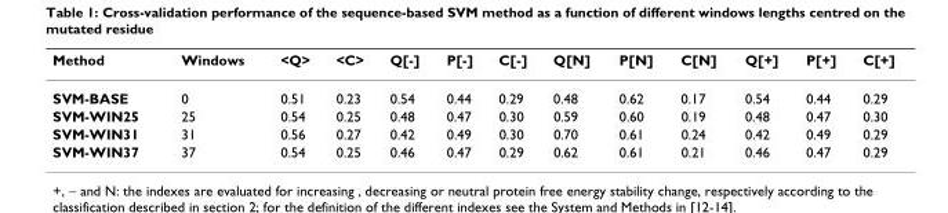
<table><thead><tr><td>Method</td><td>Windows</td><td>&lt;Q&gt;</td><td>&lt;C&gt;</td><td>Q[-]</td><td>P[-]</td><td>C[-]</td><td>Q[N]</td><td>P[N]</td><td>C[N]</td><td>Q[+]</td><td>P[+]</td><td>C[+]</td></tr></thead><tbody><tr><td>SVM-BASE</td><td>0</td><td>0.51</td><td>0.23</td><td>0.54</td><td>0.44</td><td>0.29</td><td>0.48</td><td>0.62</td><td>0.17</td><td>0.54</td><td>0.44</td><td>0.29</td></tr><tr><td>SVM-WIN25</td><td>25</td><td>0.54</td><td>0.25</td><td>0.48</td><td>0.47</td><td>0.30</td><td>0.59</td><td>0.60</td><td>0.19</td><td>0.48</td><td>0.47</td><td>0.30</td></tr><tr><td>SVM-WIN31</td><td>31</td><td>0.56</td><td>0.27</td><td>0.42</td><td>0.49</td><td>0.30</td><td>0.70</td><td>0.61</td><td>0.24</td><td>0.42</td><td>0.49</td><td>0.29</td></tr><tr><td>SVM-WIN37</td><td>37</td><td>0.54</td><td>0.25</td><td>0.46</td><td>0.47</td><td>0.29</td><td>0.62</td><td>0.61</td><td>0.21</td><td>0.46</td><td>0.47</td><td>0.29</td></tr></tbody></table>